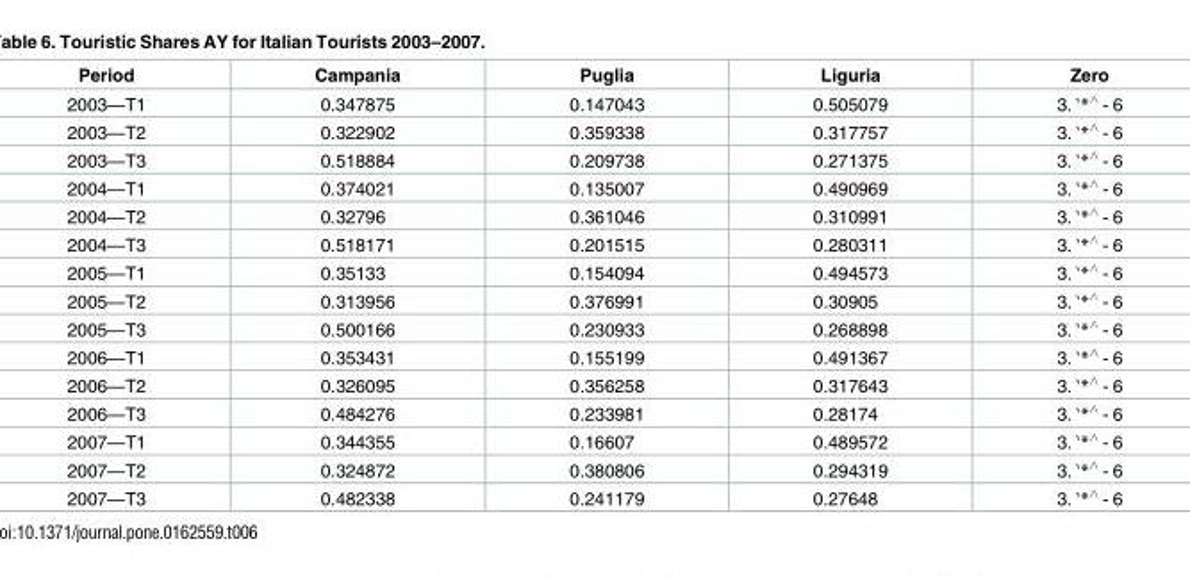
<table><thead><tr><td>Period</td><td>Campania</td><td>Puglia</td><td>Liguria</td><td>Zero</td></tr></thead><tbody><tr><td>2003—T1</td><td>0.347875</td><td>0.147043</td><td>0.505079</td><td>3. ‵*<sup>∧</sup> - 6</td></tr><tr><td>2003—T2</td><td>0.322902</td><td>0.359338</td><td>0.317757</td><td>3. ‵*<sup>∧</sup> - 6</td></tr><tr><td>2003—T3</td><td>0.518884</td><td>0.209738</td><td>0.271375</td><td>3. ‵*<sup>∧</sup> - 6</td></tr><tr><td>2004—T1</td><td>0.374021</td><td>0.135007</td><td>0.490969</td><td>3. ‵*<sup>∧</sup> - 6</td></tr><tr><td>2004—T2</td><td>0.32796</td><td>0.361046</td><td>0.310991</td><td>3. ‵*<sup>∧</sup> - 6</td></tr><tr><td>2004—T3</td><td>0.518171</td><td>0.201515</td><td>0.280311</td><td>3. ‵*<sup>∧</sup> - 6</td></tr><tr><td>2005—T1</td><td>0.35133</td><td>0.154094</td><td>0.494573</td><td>3. ‵*<sup>∧</sup> - 6</td></tr><tr><td>2005—T2</td><td>0.313956</td><td>0.376991</td><td>0.30905</td><td>3. ‵*<sup>∧</sup> - 6</td></tr><tr><td>2005—T3</td><td>0.500166</td><td>0.230933</td><td>0.268898</td><td>3. ‵*<sup>∧</sup> - 6</td></tr><tr><td>2006—T1</td><td>0.353431</td><td>0.155199</td><td>0.491367</td><td>3. ‵*<sup>∧</sup> - 6</td></tr><tr><td>2006—T2</td><td>0.326095</td><td>0.356258</td><td>0.317643</td><td>3. ‵*<sup>∧</sup> - 6</td></tr><tr><td>2006—T3</td><td>0.484276</td><td>0.233981</td><td>0.28174</td><td>3. ‵*<sup>∧</sup> - 6</td></tr><tr><td>2007—T1</td><td>0.344355</td><td>0.16607</td><td>0.489572</td><td>3. ‵*<sup>∧</sup> - 6</td></tr><tr><td>2007—T2</td><td>0.324872</td><td>0.380806</td><td>0.294319</td><td>3. ‵*<sup>∧</sup> - 6</td></tr><tr><td>2007—T3</td><td>0.482338</td><td>0.241179</td><td>0.27648</td><td>3. ‵*<sup>∧</sup> - 6</td></tr></tbody></table>